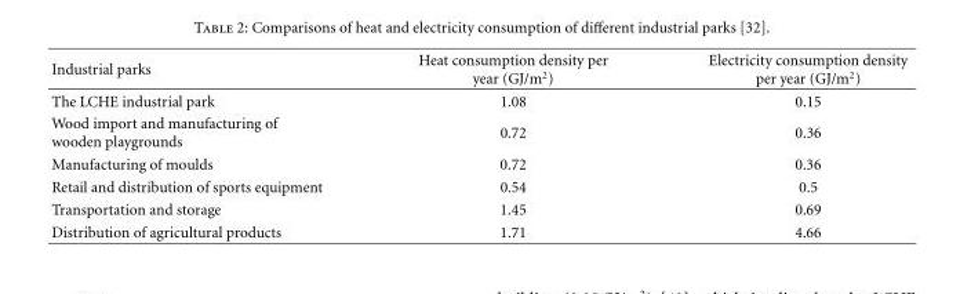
<table><thead><tr><td>Industrial parks</td><td>Heat consumption density per year (GJ/m<sup>2</sup>)</td><td>Electricity consumption density per year (GJ/m<sup>2</sup>)</td></tr></thead><tbody><tr><td>The LCHE industrial park</td><td>1.08</td><td>0.15</td></tr><tr><td>Wood import and manufacturing of wooden playgrounds</td><td>0.72</td><td>0.36</td></tr><tr><td>Manufacturing of moulds</td><td>0.72</td><td>0.36</td></tr><tr><td>Retail and distribution of sports equipment</td><td>0.54</td><td>0.5</td></tr><tr><td>Transportation and storage</td><td>1.45</td><td>0.69</td></tr><tr><td>Distribution of agricultural products</td><td>1.71</td><td>4.66</td></tr></tbody></table>